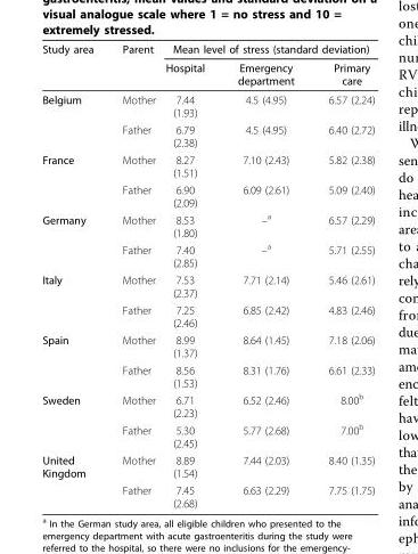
<table><thead><tr><td rowspan="2">Study area</td><td rowspan="2">Parent</td><td colspan="3">Mean level of stress (standard deviation)</td></tr><tr><td>Hospital</td><td>Emergency department</td><td>Primary care</td></tr></thead><tbody><tr><td rowspan="2">Belgium</td><td>Mother</td><td>7.44 (1.93)</td><td>4.5 (4.95)</td><td>6.57 (2.24)</td></tr><tr><td>Father</td><td>6.79 (2.38)</td><td>4.5 (4.95)</td><td>6.40 (2.72)</td></tr><tr><td rowspan="2">France</td><td>Mother</td><td>8.27 (1.51)</td><td>7.10 (2.43)</td><td>5.82 (2.38)</td></tr><tr><td>Father</td><td>6.90 (2.09)</td><td>6.09 (2.61)</td><td>5.09 (2.40)</td></tr><tr><td rowspan="2">Germany</td><td>Mother</td><td>8.53 (1.80)</td><td>–a</td><td>6.57 (2.29)</td></tr><tr><td>Father</td><td>7.40 (2.85)</td><td>–a</td><td>5.71 (2.55)</td></tr><tr><td rowspan="2">Italy</td><td>Mother</td><td>7.53 (2.37)</td><td>7.71 (2.14)</td><td>5.46 (2.61)</td></tr><tr><td>Father</td><td>7.25 (2.46)</td><td>6.85 (2.42)</td><td>4.83 (2.46)</td></tr><tr><td rowspan="2">Spain</td><td>Mother</td><td>8.99 (1.37)</td><td>8.64 (1.45)</td><td>7.18 (2.06)</td></tr><tr><td>Father</td><td>8.56 (1.53)</td><td>8.31 (1.76)</td><td>6.61 (2.33)</td></tr><tr><td rowspan="2">Sweden</td><td>Mother</td><td>6.71 (2.23)</td><td>6.52 (2.46)</td><td>8.00<sup>b</sup></td></tr><tr><td>Father</td><td>5.30 (2.45)</td><td>5.77 (2.68)</td><td>7.00<sup>b</sup></td></tr><tr><td rowspan="2">United Kingdom</td><td>Mother</td><td>8.89 (1.54)</td><td>7.44 (2.03)</td><td>8.40 (1.35)</td></tr><tr><td>Father</td><td>7.45 (2.68)</td><td>6.63 (2.29)</td><td>7.75 (1.75)</td></tr></tbody></table>